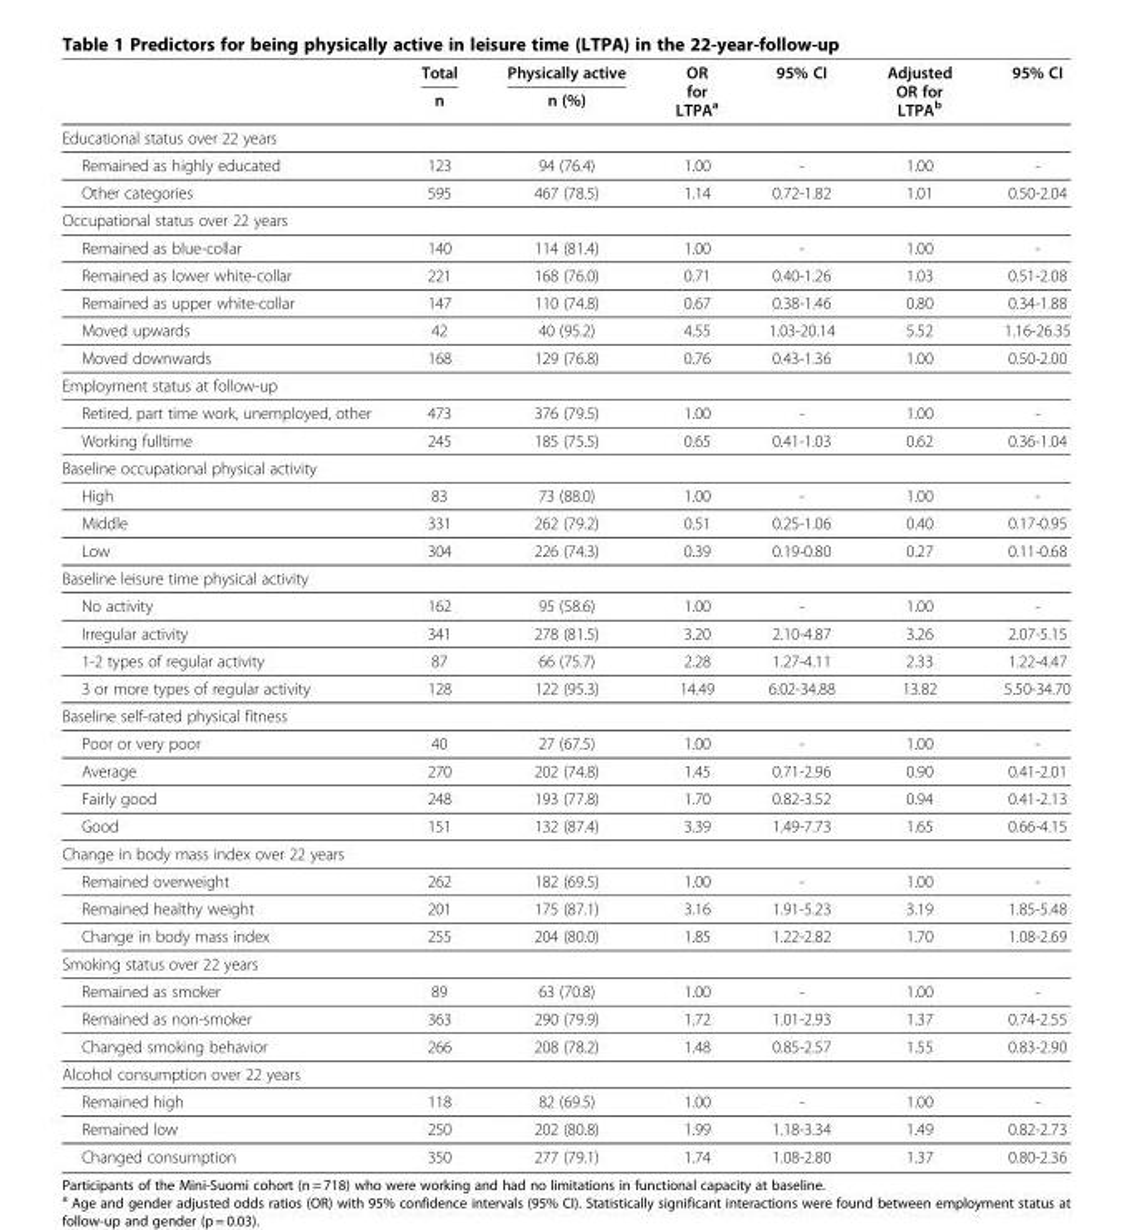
<table><thead><tr><td rowspan="2"></td><td rowspan="2">Total n</td><td rowspan="2">Physically active n (%)</td><td rowspan="2">OR for LTPA<sup>a</sup></td><td rowspan="2">95% CI</td><td rowspan="2">Adjusted OR for LTPA<sup>b</sup></td><td rowspan="2">95% CI</td></tr><tr></tr></thead><tbody><tr><td colspan="7">Educational status over 22 years</td></tr><tr><td>Remained as highly educated</td><td>123</td><td>94 (76.4)</td><td>1.00</td><td>-</td><td>1.00</td><td>-</td></tr><tr><td>Other categories</td><td>595</td><td>467 (78.5)</td><td>1.14</td><td>0.72-1.82</td><td>1.01</td><td>0.50-2.04</td></tr><tr><td colspan="7">Occupational status over 22 years</td></tr><tr><td>Remained as blue-collar</td><td>140</td><td>114 (81.4)</td><td>1.00</td><td>-</td><td>1.00</td><td>-</td></tr><tr><td>Remained as lower white-collar</td><td>221</td><td>168 (76.0)</td><td>0.71</td><td>0.40-1.26</td><td>1.03</td><td>0.51-2.08</td></tr><tr><td>Remained as upper white-collar</td><td>147</td><td>110 (74.8)</td><td>0.67</td><td>0.38-1.46</td><td>0.80</td><td>0.34-1.88</td></tr><tr><td>Moved upwards</td><td>42</td><td>40 (95.2)</td><td>4.55</td><td>1.03-20.14</td><td>5.52</td><td>1.16-26.35</td></tr><tr><td>Moved downwards</td><td>168</td><td>129 (76.8)</td><td>0.76</td><td>0.43-1.36</td><td>1.00</td><td>0.50-2.00</td></tr><tr><td colspan="7">Employment status at follow-up</td></tr><tr><td>Retired, part time work, unemployed, other</td><td>473</td><td>376 (79.5)</td><td>1.00</td><td>-</td><td>1.00</td><td>-</td></tr><tr><td>Working fulltime</td><td>245</td><td>185 (75.5)</td><td>0.65</td><td>0.41-1.03</td><td>0.62</td><td>0.36-1.04</td></tr><tr><td colspan="7">Baseline occupational physical activity</td></tr><tr><td>High</td><td>83</td><td>73 (88.0)</td><td>1.00</td><td>-</td><td>1.00</td><td>-</td></tr><tr><td>Middle</td><td>331</td><td>262 (79.2)</td><td>0.51</td><td>0.25-1.06</td><td>0.40</td><td>0.17-0.95</td></tr><tr><td>Low</td><td>304</td><td>226 (74.3)</td><td>0.39</td><td>0.19-0.80</td><td>0.27</td><td>0.11-0.68</td></tr><tr><td colspan="7">Baseline leisure time physical activity</td></tr><tr><td>No activity</td><td>162</td><td>95 (58.6)</td><td>1.00</td><td>-</td><td>1.00</td><td>-</td></tr><tr><td>Irregular activity</td><td>341</td><td>278 (81.5)</td><td>3.20</td><td>2.10-4.87</td><td>3.26</td><td>2.07-5.15</td></tr><tr><td>1-2 types of regular activity</td><td>87</td><td>66 (75.7)</td><td>2.28</td><td>1.27-4.11</td><td>2.33</td><td>1.22-4.47</td></tr><tr><td>3 or more types of regular activity</td><td>128</td><td>122 (95.3)</td><td>14.49</td><td>6.02-34.88</td><td>13.82</td><td>5.50-34.70</td></tr><tr><td colspan="7">Baseline self-rated physical fitness</td></tr><tr><td>Poor or very poor</td><td>40</td><td>27 (67.5)</td><td>1.00</td><td>-</td><td>1.00</td><td>-</td></tr><tr><td>Average</td><td>270</td><td>202 (74.8)</td><td>1.45</td><td>0.71-2.96</td><td>0.90</td><td>0.41-2.01</td></tr><tr><td>Fairly good</td><td>248</td><td>193 (77.8)</td><td>1.70</td><td>0.82-3.52</td><td>0.94</td><td>0.41-2.13</td></tr><tr><td>Good</td><td>151</td><td>132 (87.4)</td><td>3.39</td><td>1.49-7.73</td><td>1.65</td><td>0.66-4.15</td></tr><tr><td colspan="7">Change in body mass index over 22 years</td></tr><tr><td>Remained overweight</td><td>262</td><td>182 (69.5)</td><td>1.00</td><td>-</td><td>1.00</td><td>-</td></tr><tr><td>Remained healthy weight</td><td>201</td><td>175 (87.1)</td><td>3.16</td><td>1.91-5.23</td><td>3.19</td><td>1.85-5.48</td></tr><tr><td>Change in body mass index</td><td>255</td><td>204 (80.0)</td><td>1.85</td><td>1.22-2.82</td><td>1.70</td><td>1.08-2.69</td></tr><tr><td colspan="7">Smoking status over 22 years</td></tr><tr><td>Remained as smoker</td><td>89</td><td>63 (70.8)</td><td>1.00</td><td>-</td><td>1.00</td><td>-</td></tr><tr><td>Remained as non-smoker</td><td>363</td><td>290 (79.9)</td><td>1.72</td><td>1.01-2.93</td><td>1.37</td><td>0.74-2.55</td></tr><tr><td>Changed smoking behavior</td><td>266</td><td>208 (78.2)</td><td>1.48</td><td>0.85-2.57</td><td>1.55</td><td>0.83-2.90</td></tr><tr><td colspan="7">Alcohol consumption over 22 years</td></tr><tr><td>Remained high</td><td>118</td><td>82 (69.5)</td><td>1.00</td><td>-</td><td>1.00</td><td>-</td></tr><tr><td>Remained low</td><td>250</td><td>202 (80.8)</td><td>1.99</td><td>1.18-3.34</td><td>1.49</td><td>0.82-2.73</td></tr><tr><td>Changed consumption</td><td>350</td><td>277 (79.1)</td><td>1.74</td><td>1.08-2.80</td><td>1.37</td><td>0.80-2.36</td></tr></tbody></table>